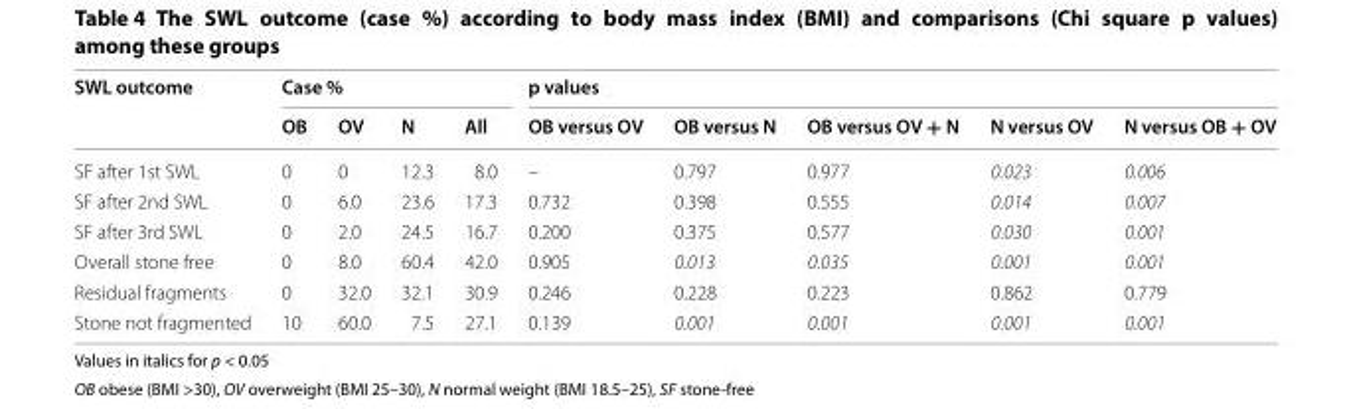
<table><thead><tr><td rowspan="2">SWL outcome</td><td colspan="4">Case %</td><td colspan="5">p values</td></tr><tr><td>OB</td><td>OV</td><td>N</td><td>All</td><td>OB versus OV</td><td>OB versus N</td><td>OB versus OV + N</td><td>N versus OV</td><td>N versus OB + OV</td></tr></thead><tbody><tr><td>SF after 1st SWL</td><td>0</td><td>0</td><td>12.3</td><td>8.0</td><td>–</td><td>0.797</td><td>0.977</td><td>0.023</td><td>0.006</td></tr><tr><td>SF after 2nd SWL</td><td>0</td><td>6.0</td><td>23.6</td><td>17.3</td><td>0.732</td><td>0.398</td><td>0.555</td><td>0.014</td><td>0.007</td></tr><tr><td>SF after 3rd SWL</td><td>0</td><td>2.0</td><td>24.5</td><td>16.7</td><td>0.200</td><td>0.375</td><td>0.577</td><td>0.030</td><td>0.001</td></tr><tr><td>Overall stone free</td><td>0</td><td>8.0</td><td>60.4</td><td>42.0</td><td>0.905</td><td>0.013</td><td>0.035</td><td>0.001</td><td>0.001</td></tr><tr><td>Residual fragments</td><td>0</td><td>32.0</td><td>32.1</td><td>30.9</td><td>0.246</td><td>0.228</td><td>0.223</td><td>0.862</td><td>0.779</td></tr><tr><td>Stone not fragmented</td><td>10</td><td>60.0</td><td>7.5</td><td>27.1</td><td>0.139</td><td>0.001</td><td>0.001</td><td>0.001</td><td>0.001</td></tr></tbody></table>